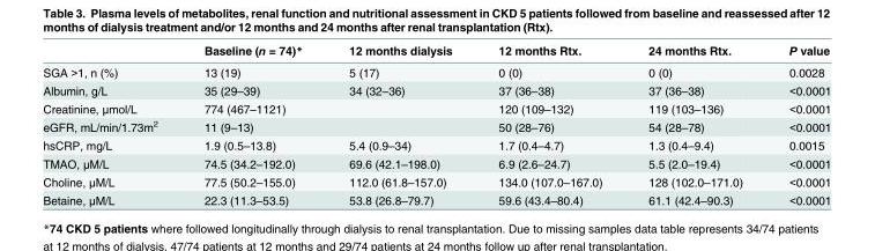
<table><thead><tr><td></td><td>Baseline (n = 74)*</td><td>12 months dialysis</td><td>12 months Rtx.</td><td>24 months Rtx.</td><td>P value</td></tr></thead><tbody><tr><td>SGA &gt;1, n (%)</td><td>13 (19)</td><td>5 (17)</td><td>0 (0)</td><td>0 (0)</td><td>0.0028</td></tr><tr><td>Albumin, g/L</td><td>35 (29–39)</td><td>34 (32–36)</td><td>37 (36–38)</td><td>37 (36–38)</td><td>&lt;0.0001</td></tr><tr><td>Creatinine, μmol/L</td><td>774 (467–1121)</td><td></td><td>120 (109–132)</td><td>119 (103–136)</td><td>&lt;0.0001</td></tr><tr><td>eGFR, mL/min/1.73m<sup>2</sup></td><td>11 (9–13)</td><td></td><td>50 (28–76)</td><td>54 (28–78)</td><td>&lt;0.0001</td></tr><tr><td>hsCRP, mg/L</td><td>1.9 (0.5–13.8)</td><td>5.4 (0.9–34)</td><td>1.7 (0.4–4.7)</td><td>1.3 (0.4–9.4)</td><td>0.0015</td></tr><tr><td>TMAO, μM/L</td><td>74.5 (34.2–192.0)</td><td>69.6 (42.1–198.0)</td><td>6.9 (2.6–24.7)</td><td>5.5 (2.0–19.4)</td><td>&lt;0.0001</td></tr><tr><td>Choline, μM/L</td><td>77.5 (50.2–155.0)</td><td>112.0 (61.8–157.0)</td><td>134.0 (107.0–167.0)</td><td>128 (102.0–171.0)</td><td>&lt;0.0001</td></tr><tr><td>Betaine, μM/L</td><td>22.3 (11.3–53.5)</td><td>53.8 (26.8–79.7)</td><td>59.6 (43.4–80.4)</td><td>61.1 (42.4–90.3)</td><td>&lt;0.0001</td></tr></tbody></table>